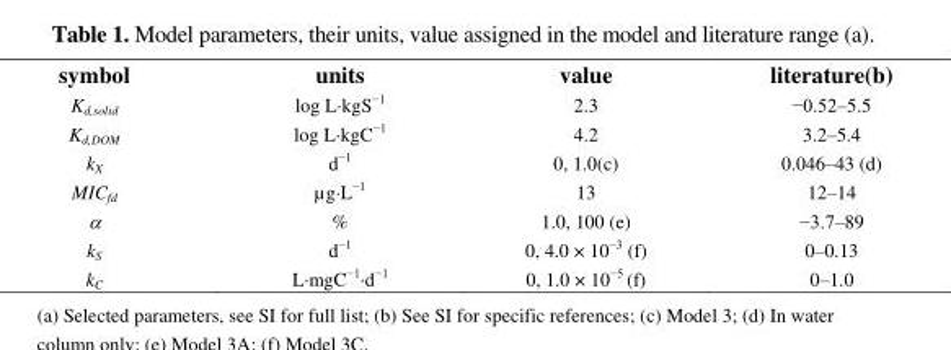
<table><thead><tr><td>symbol</td><td>units</td><td>value</td><td>literature(b)</td></tr></thead><tbody><tr><td>K<sub>d,solid</sub></td><td>log L·kgS<sup>−1</sup></td><td>2.3</td><td>−0.52–5.5</td></tr><tr><td>K<sub>d,DOM</sub></td><td>log L·kgC<sup>−1</sup></td><td>4.2</td><td>3.2–5.4</td></tr><tr><td>k<sub>X</sub></td><td>d<sup>−1</sup></td><td>0, 1.0(c)</td><td>0.046–43 (d)</td></tr><tr><td>MIC<sub>fd</sub></td><td>µg·L<sup>−1</sup></td><td>13</td><td>12–14</td></tr><tr><td>α</td><td>%</td><td>1.0, 100 (e)</td><td>−3.7–89</td></tr><tr><td>k<sub>S</sub></td><td>d<sup>−1</sup></td><td>0, 4.0 × 10<sup>−3</sup> (f)</td><td>0–0.13</td></tr><tr><td>k<sub>C</sub></td><td>L·mgC<sup>−1</sup>·d<sup>−1</sup></td><td>0, 1.0 × 10<sup>−5</sup> (f)</td><td>0–1.0</td></tr></tbody></table>